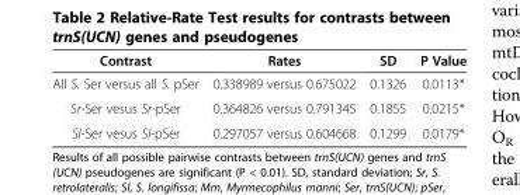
<table><thead><tr><td>Contrast</td><td>Rates</td><td>SD</td><td>P Value</td></tr></thead><tbody><tr><td>All S. Ser versus all S. pSer</td><td>0.338989 versus 0.675022</td><td>0.1326</td><td>0.0113*</td></tr><tr><td>Sr-Ser vesus Sr-pSer</td><td>0.364826 versus 0.791345</td><td>0.1855</td><td>0.0215*</td></tr><tr><td>Sl-Ser vesus Sl-pSer</td><td>0.297057 versus 0.604668</td><td>0.1299</td><td>0.0179*</td></tr></tbody></table>